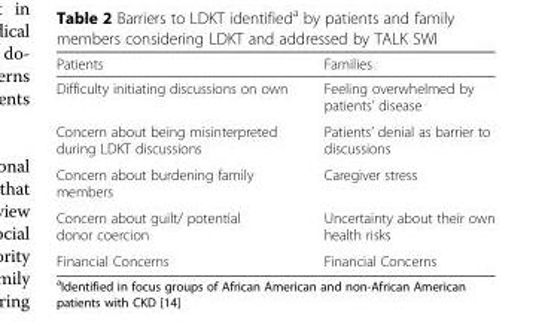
<table><thead><tr><td>Patients</td><td>Families</td></tr></thead><tbody><tr><td>Difficulty initiating discussions on own</td><td>Feeling overwhelmed by patients’ disease</td></tr><tr><td>Concern about being misinterpreted during LDKT discussions</td><td>Patients’ denial as barrier to discussions</td></tr><tr><td>Concern about burdening family members</td><td>Caregiver stress</td></tr><tr><td>Concern about guilt/ potential donor coercion</td><td>Uncertainty about their own health risks</td></tr><tr><td>Financial Concerns</td><td>Financial Concerns</td></tr></tbody></table>